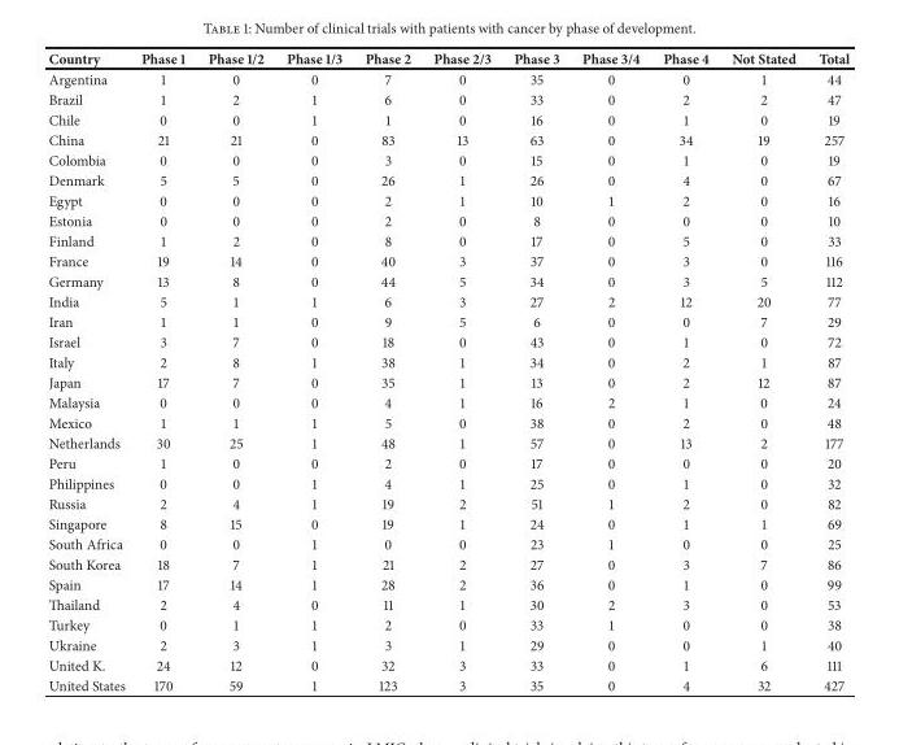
<table><thead><tr><td>Country</td><td>Phase 1</td><td>Phase 1/2</td><td>Phase 1/3</td><td>Phase 2</td><td>Phase 2/3</td><td>Phase 3</td><td>Phase 3/4</td><td>Phase 4</td><td>Not Stated</td><td>Total</td></tr></thead><tbody><tr><td>Argentina</td><td>1</td><td>0</td><td>0</td><td>7</td><td>0</td><td>35</td><td>0</td><td>0</td><td>1</td><td>44</td></tr><tr><td>Brazil</td><td>1</td><td>2</td><td>1</td><td>6</td><td>0</td><td>33</td><td>0</td><td>2</td><td>2</td><td>47</td></tr><tr><td>Chile</td><td>0</td><td>0</td><td>1</td><td>1</td><td>0</td><td>16</td><td>0</td><td>1</td><td>0</td><td>19</td></tr><tr><td>China</td><td>21</td><td>21</td><td>0</td><td>83</td><td>13</td><td>63</td><td>0</td><td>34</td><td>19</td><td>257</td></tr><tr><td>Colombia</td><td>0</td><td>0</td><td>0</td><td>3</td><td>0</td><td>15</td><td>0</td><td>1</td><td>0</td><td>19</td></tr><tr><td>Denmark</td><td>5</td><td>5</td><td>0</td><td>26</td><td>1</td><td>26</td><td>0</td><td>4</td><td>0</td><td>67</td></tr><tr><td>Egypt</td><td>0</td><td>0</td><td>0</td><td>2</td><td>1</td><td>10</td><td>1</td><td>2</td><td>0</td><td>16</td></tr><tr><td>Estonia</td><td>0</td><td>0</td><td>0</td><td>2</td><td>0</td><td>8</td><td>0</td><td>0</td><td>0</td><td>10</td></tr><tr><td>Finland</td><td>1</td><td>2</td><td>0</td><td>8</td><td>0</td><td>17</td><td>0</td><td>5</td><td>0</td><td>33</td></tr><tr><td>France</td><td>19</td><td>14</td><td>0</td><td>40</td><td>3</td><td>37</td><td>0</td><td>3</td><td>0</td><td>116</td></tr><tr><td>Germany</td><td>13</td><td>8</td><td>0</td><td>44</td><td>5</td><td>34</td><td>0</td><td>3</td><td>5</td><td>112</td></tr><tr><td>India</td><td>5</td><td>1</td><td>1</td><td>6</td><td>3</td><td>27</td><td>2</td><td>12</td><td>20</td><td>77</td></tr><tr><td>Iran</td><td>1</td><td>1</td><td>0</td><td>9</td><td>5</td><td>6</td><td>0</td><td>0</td><td>7</td><td>29</td></tr><tr><td>Israel</td><td>3</td><td>7</td><td>0</td><td>18</td><td>0</td><td>43</td><td>0</td><td>1</td><td>0</td><td>72</td></tr><tr><td>Italy</td><td>2</td><td>8</td><td>1</td><td>38</td><td>1</td><td>34</td><td>0</td><td>2</td><td>1</td><td>87</td></tr><tr><td>Japan</td><td>17</td><td>7</td><td>0</td><td>35</td><td>1</td><td>13</td><td>0</td><td>2</td><td>12</td><td>87</td></tr><tr><td>Malaysia</td><td>0</td><td>0</td><td>0</td><td>4</td><td>1</td><td>16</td><td>2</td><td>1</td><td>0</td><td>24</td></tr><tr><td>Mexico</td><td>1</td><td>1</td><td>1</td><td>5</td><td>0</td><td>38</td><td>0</td><td>2</td><td>0</td><td>48</td></tr><tr><td>Netherlands</td><td>30</td><td>25</td><td>1</td><td>48</td><td>1</td><td>57</td><td>0</td><td>13</td><td>2</td><td>177</td></tr><tr><td>Peru</td><td>1</td><td>0</td><td>0</td><td>2</td><td>0</td><td>17</td><td>0</td><td>0</td><td>0</td><td>20</td></tr><tr><td>Philippines</td><td>0</td><td>0</td><td>1</td><td>4</td><td>1</td><td>25</td><td>0</td><td>1</td><td>0</td><td>32</td></tr><tr><td>Russia</td><td>2</td><td>4</td><td>1</td><td>19</td><td>2</td><td>51</td><td>1</td><td>2</td><td>0</td><td>82</td></tr><tr><td>Singapore</td><td>8</td><td>15</td><td>0</td><td>19</td><td>1</td><td>24</td><td>0</td><td>1</td><td>1</td><td>69</td></tr><tr><td>South Africa</td><td>0</td><td>0</td><td>1</td><td>0</td><td>0</td><td>23</td><td>1</td><td>0</td><td>0</td><td>25</td></tr><tr><td>South Korea</td><td>18</td><td>7</td><td>1</td><td>21</td><td>2</td><td>27</td><td>0</td><td>3</td><td>7</td><td>86</td></tr><tr><td>Spain</td><td>17</td><td>14</td><td>1</td><td>28</td><td>2</td><td>36</td><td>0</td><td>1</td><td>0</td><td>99</td></tr><tr><td>Thailand</td><td>2</td><td>4</td><td>0</td><td>11</td><td>1</td><td>30</td><td>2</td><td>3</td><td>0</td><td>53</td></tr><tr><td>Turkey</td><td>0</td><td>1</td><td>1</td><td>2</td><td>0</td><td>33</td><td>1</td><td>0</td><td>0</td><td>38</td></tr><tr><td>Ukraine</td><td>2</td><td>3</td><td>1</td><td>3</td><td>1</td><td>29</td><td>0</td><td>0</td><td>1</td><td>40</td></tr><tr><td>United K.</td><td>24</td><td>12</td><td>0</td><td>32</td><td>3</td><td>33</td><td>0</td><td>1</td><td>6</td><td>111</td></tr><tr><td>United States</td><td>170</td><td>59</td><td>1</td><td>123</td><td>3</td><td>35</td><td>0</td><td>4</td><td>32</td><td>427</td></tr></tbody></table>